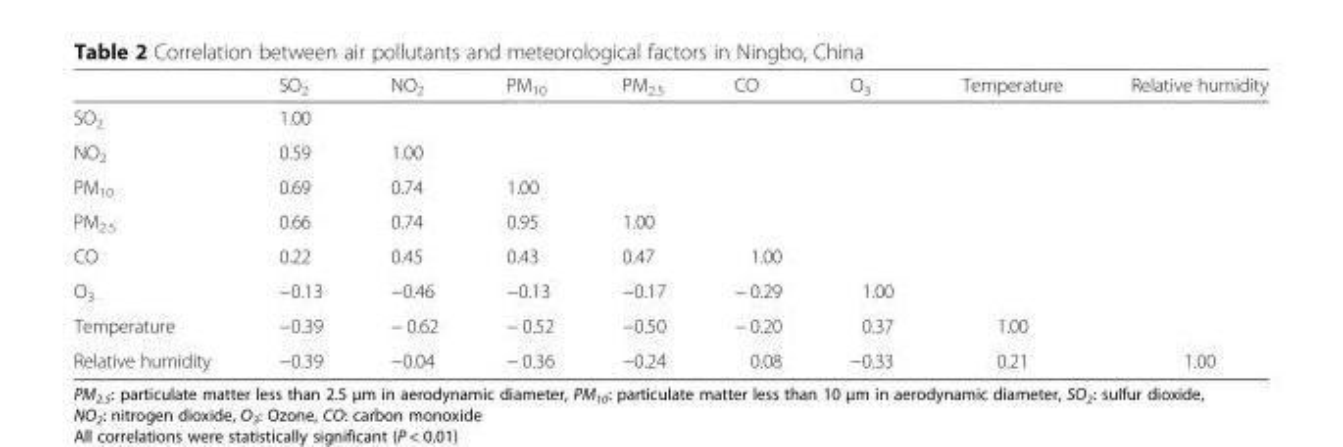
<table><thead><tr><td></td><td>SO<sub>2</sub></td><td>NO<sub>2</sub></td><td>PM<sub>10</sub></td><td>PM<sub>2.5</sub></td><td>CO</td><td>O<sub>3</sub></td><td>Temperature</td><td>Relative humidity</td></tr></thead><tbody><tr><td>SO<sub>2</sub></td><td>1.00</td><td></td><td></td><td></td><td></td><td></td><td></td><td></td></tr><tr><td>NO<sub>2</sub></td><td>0.59</td><td>1.00</td><td></td><td></td><td></td><td></td><td></td><td></td></tr><tr><td>PM<sub>10</sub></td><td>0.69</td><td>0.74</td><td>1.00</td><td></td><td></td><td></td><td></td><td></td></tr><tr><td>PM<sub>2.5</sub></td><td>0.66</td><td>0.74</td><td>0.95</td><td>1.00</td><td></td><td></td><td></td><td></td></tr><tr><td>CO</td><td>0.22</td><td>0.45</td><td>0.43</td><td>0.47</td><td>1.00</td><td></td><td></td><td></td></tr><tr><td>O<sub>3</sub></td><td>−0.13</td><td>−0.46</td><td>−0.13</td><td>−0.17</td><td>− 0.29</td><td>1.00</td><td></td><td></td></tr><tr><td>Temperature</td><td>−0.39</td><td>− 0.62</td><td>− 0.52</td><td>−0.50</td><td>− 0.20</td><td>0.37</td><td>1.00</td><td></td></tr><tr><td>Relative humidity</td><td>−0.39</td><td>−0.04</td><td>− 0.36</td><td>−0.24</td><td>0.08</td><td>−0.33</td><td>0.21</td><td>1.00</td></tr></tbody></table>